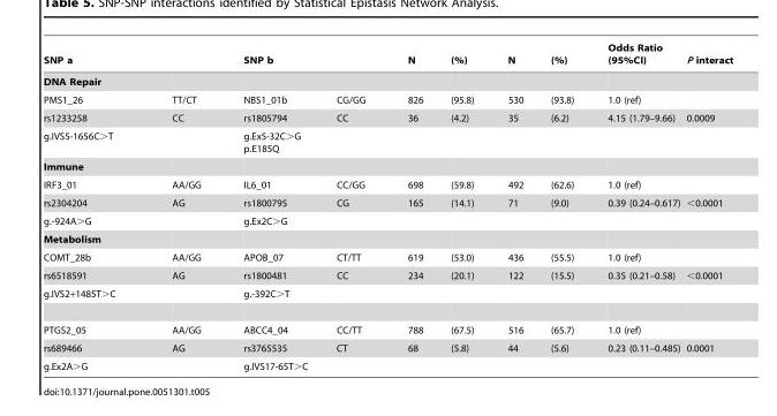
<table><thead><tr><td>SNP a</td><td></td><td>SNP b</td><td></td><td>N</td><td>(%)</td><td>N</td><td>(%)</td><td>Odds Ratio (95%CI)</td><td>P interact</td></tr></thead><tbody><tr><td colspan="10">DNA Repair</td></tr><tr><td>PMS1_26</td><td>TT/CT</td><td>NBS1_01b</td><td>CG/GG</td><td>826</td><td>(95.8)</td><td>530</td><td>(93.8)</td><td>1.0 (ref)</td><td></td></tr><tr><td>rs1233258</td><td>CC</td><td>rs1805794</td><td>CC</td><td>36</td><td>(4.2)</td><td>35</td><td>(6.2)</td><td>4.15 (1.79–9.66)</td><td>0.0009</td></tr><tr><td>g.IVS5-1656C&gt;T</td><td></td><td>g.Ex5-32C&gt;G p.E185Q</td><td></td><td></td><td></td><td></td><td></td><td></td><td></td></tr><tr><td colspan="10">Immune</td></tr><tr><td>IRF3_01</td><td>AA/GG</td><td>IL6_01</td><td>CC/GG</td><td>698</td><td>(59.8)</td><td>492</td><td>(62.6)</td><td>1.0 (ref)</td><td></td></tr><tr><td>rs2304204</td><td>AG</td><td>rs1800795</td><td>CG</td><td>165</td><td>(14.1)</td><td>71</td><td>(9.0)</td><td>0.39 (0.24–0.617)</td><td>&lt;0.0001</td></tr><tr><td>g.-924A&gt;G</td><td></td><td>g.Ex2C&gt;G</td><td></td><td></td><td></td><td></td><td></td><td></td><td></td></tr><tr><td colspan="10">Metabolism</td></tr><tr><td>COMT_28b</td><td>AA/GG</td><td>APOB_07</td><td>CT/TT</td><td>619</td><td>(53.0)</td><td>436</td><td>(55.5)</td><td>1.0 (ref)</td><td></td></tr><tr><td>rs6518591</td><td>AG</td><td>rs1800481</td><td>CC</td><td>234</td><td>(20.1)</td><td>122</td><td>(15.5)</td><td>0.35 (0.21–0.58)</td><td>&lt;0.0001</td></tr><tr><td>g.IVS2+1485T&gt;C</td><td></td><td>g.-392C&gt;T</td><td></td><td></td><td></td><td></td><td></td><td></td><td></td></tr><tr><td>PTGS2_05</td><td>AA/GG</td><td>ABCC4_04</td><td>CC/TT</td><td>788</td><td>(67.5)</td><td>516</td><td>(65.7)</td><td>1.0 (ref)</td><td></td></tr><tr><td>rs689466</td><td>AG</td><td>rs3765535</td><td>CT</td><td>68</td><td>(5.8)</td><td>44</td><td>(5.6)</td><td>0.23 (0.11–0.485)</td><td>0.0001</td></tr><tr><td>g.Ex2A&gt;G</td><td></td><td>g.IVS17-65T&gt;C</td><td></td><td></td><td></td><td></td><td></td><td></td><td></td></tr></tbody></table>